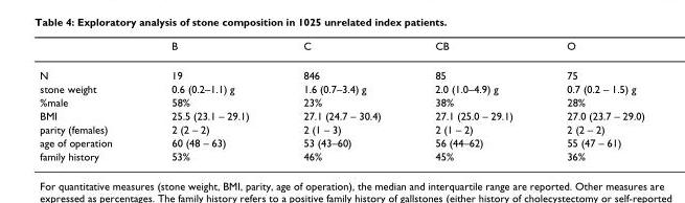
<table><thead><tr><td></td><td>B</td><td>C</td><td>CB</td><td>O</td></tr></thead><tbody><tr><td>N</td><td>19</td><td>846</td><td>85</td><td>75</td></tr><tr><td>stone weight</td><td>0.6 (0.2–1.1) g</td><td>1.6 (0.7–3.4) g</td><td>2.0 (1.0–4.9) g</td><td>0.7 (0.2 – 1.5) g</td></tr><tr><td>%male</td><td>58%</td><td>23%</td><td>38%</td><td>28%</td></tr><tr><td>BMI</td><td>25.5 (23.1 – 29.1)</td><td>27.1 (24.7 – 30.4)</td><td>27.1 (25.0 – 29.1)</td><td>27.0 (23.7 – 29.0)</td></tr><tr><td>parity (females)</td><td>2 (2 – 2)</td><td>2 (1 – 3)</td><td>2 (1 – 2)</td><td>2 (2 – 2)</td></tr><tr><td>age of operation</td><td>60 (48 – 63)</td><td>53 (43–60)</td><td>56 (44–62)</td><td>55 (47 – 61)</td></tr><tr><td>family history</td><td>53%</td><td>46%</td><td>45%</td><td>36%</td></tr></tbody></table>